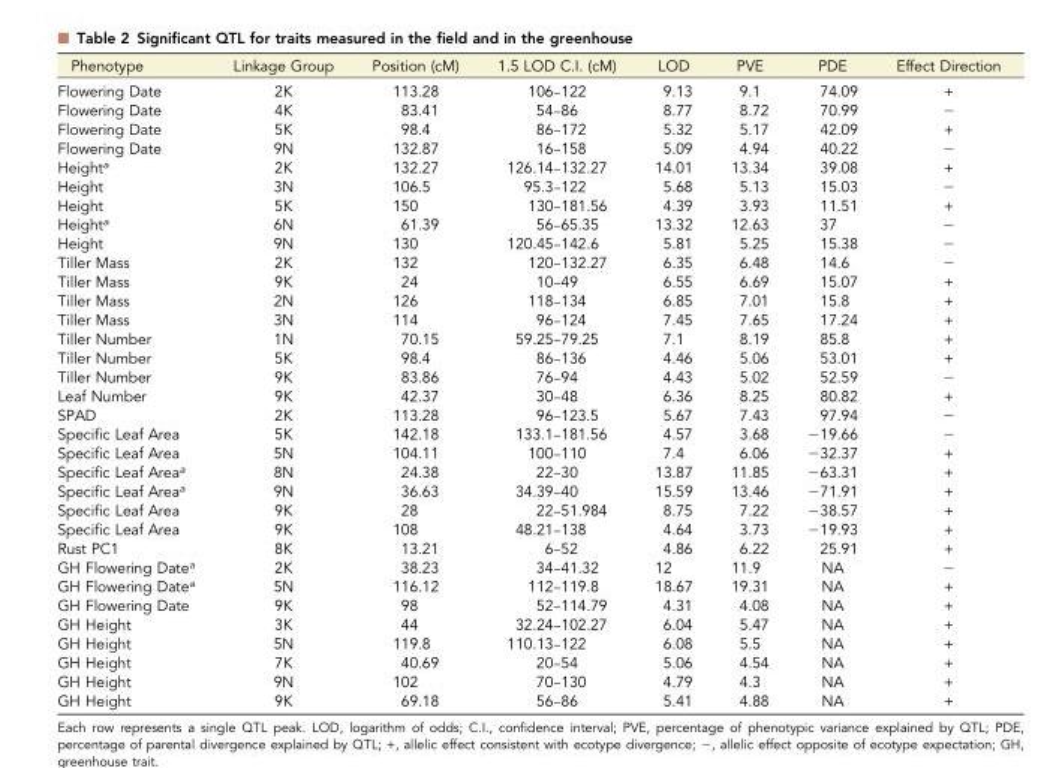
<table><thead><tr><td>Phenotype</td><td>Linkage Group</td><td>Position (cM)</td><td>1.5 LOD C.I. (cM)</td><td>LOD</td><td>PVE</td><td>PDE</td><td>Effect Direction</td></tr></thead><tbody><tr><td>Flowering Date</td><td>2K</td><td>113.28</td><td>106–122</td><td>9.13</td><td>9.1</td><td>74.09</td><td>+</td></tr><tr><td>Flowering Date</td><td>4K</td><td>83.41</td><td>54–86</td><td>8.77</td><td>8.72</td><td>70.99</td><td>−</td></tr><tr><td>Flowering Date</td><td>5K</td><td>98.4</td><td>86–172</td><td>5.32</td><td>5.17</td><td>42.09</td><td>+</td></tr><tr><td>Flowering Date</td><td>9N</td><td>132.87</td><td>16–158</td><td>5.09</td><td>4.94</td><td>40.22</td><td>−</td></tr><tr><td>Height<sup>a</sup></td><td>2K</td><td>132.27</td><td>126.14–132.27</td><td>14.01</td><td>13.34</td><td>39.08</td><td>+</td></tr><tr><td>Height</td><td>3N</td><td>106.5</td><td>95.3–122</td><td>5.68</td><td>5.13</td><td>15.03</td><td>−</td></tr><tr><td>Height</td><td>5K</td><td>150</td><td>130–181.56</td><td>4.39</td><td>3.93</td><td>11.51</td><td>+</td></tr><tr><td>Height<sup>a</sup></td><td>6N</td><td>61.39</td><td>56–65.35</td><td>13.32</td><td>12.63</td><td>37</td><td>−</td></tr><tr><td>Height</td><td>9N</td><td>130</td><td>120.45–142.6</td><td>5.81</td><td>5.25</td><td>15.38</td><td>−</td></tr><tr><td>Tiller Mass</td><td>2K</td><td>132</td><td>120–132.27</td><td>6.35</td><td>6.48</td><td>14.6</td><td>−</td></tr><tr><td>Tiller Mass</td><td>9K</td><td>24</td><td>10–49</td><td>6.55</td><td>6.69</td><td>15.07</td><td>+</td></tr><tr><td>Tiller Mass</td><td>2N</td><td>126</td><td>118–134</td><td>6.85</td><td>7.01</td><td>15.8</td><td>+</td></tr><tr><td>Tiller Mass</td><td>3N</td><td>114</td><td>96–124</td><td>7.45</td><td>7.65</td><td>17.24</td><td>+</td></tr><tr><td>Tiller Number</td><td>1N</td><td>70.15</td><td>59.25–79.25</td><td>7.1</td><td>8.19</td><td>85.8</td><td>+</td></tr><tr><td>Tiller Number</td><td>5K</td><td>98.4</td><td>86–136</td><td>4.46</td><td>5.06</td><td>53.01</td><td>+</td></tr><tr><td>Tiller Number</td><td>9K</td><td>83.86</td><td>76–94</td><td>4.43</td><td>5.02</td><td>52.59</td><td>−</td></tr><tr><td>Leaf Number</td><td>9K</td><td>42.37</td><td>30–48</td><td>6.36</td><td>8.25</td><td>80.82</td><td>+</td></tr><tr><td>SPAD</td><td>2K</td><td>113.28</td><td>96–123.5</td><td>5.67</td><td>7.43</td><td>97.94</td><td>−</td></tr><tr><td>Specific Leaf Area</td><td>5K</td><td>142.18</td><td>133.1–181.56</td><td>4.57</td><td>3.68</td><td>−19.66</td><td>−</td></tr><tr><td>Specific Leaf Area</td><td>5N</td><td>104.11</td><td>100–110</td><td>7.4</td><td>6.06</td><td>−32.37</td><td>+</td></tr><tr><td>Specific Leaf Area<sup>a</sup></td><td>8N</td><td>24.38</td><td>22–30</td><td>13.87</td><td>11.85</td><td>−63.31</td><td>+</td></tr><tr><td>Specific Leaf Area<sup>a</sup></td><td>9N</td><td>36.63</td><td>34.39–40</td><td>15.59</td><td>13.46</td><td>−71.91</td><td>+</td></tr><tr><td>Specific Leaf Area</td><td>9K</td><td>28</td><td>22–51.984</td><td>8.75</td><td>7.22</td><td>−38.57</td><td>+</td></tr><tr><td>Specific Leaf Area</td><td>9K</td><td>108</td><td>48.21–138</td><td>4.64</td><td>3.73</td><td>−19.93</td><td>+</td></tr><tr><td>Rust PC1</td><td>8K</td><td>13.21</td><td>6–52</td><td>4.86</td><td>6.22</td><td>25.91</td><td>+</td></tr><tr><td>GH Flowering Date<sup>a</sup></td><td>2K</td><td>38.23</td><td>34–41.32</td><td>12</td><td>11.9</td><td>NA</td><td>−</td></tr><tr><td>GH Flowering Date<sup>a</sup></td><td>5N</td><td>116.12</td><td>112–119.8</td><td>18.67</td><td>19.31</td><td>NA</td><td>+</td></tr><tr><td>GH Flowering Date</td><td>9K</td><td>98</td><td>52–114.79</td><td>4.31</td><td>4.08</td><td>NA</td><td>+</td></tr><tr><td>GH Height</td><td>3K</td><td>44</td><td>32.24–102.27</td><td>6.04</td><td>5.47</td><td>NA</td><td>+</td></tr><tr><td>GH Height</td><td>5N</td><td>119.8</td><td>110.13–122</td><td>6.08</td><td>5.5</td><td>NA</td><td>+</td></tr><tr><td>GH Height</td><td>7K</td><td>40.69</td><td>20–54</td><td>5.06</td><td>4.54</td><td>NA</td><td>+</td></tr><tr><td>GH Height</td><td>9N</td><td>102</td><td>70–130</td><td>4.79</td><td>4.3</td><td>NA</td><td>+</td></tr><tr><td>GH Height</td><td>9K</td><td>69.18</td><td>56–86</td><td>5.41</td><td>4.88</td><td>NA</td><td>+</td></tr></tbody></table>